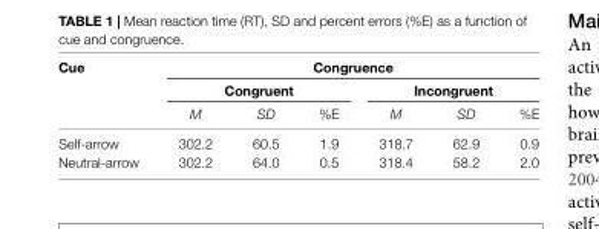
<table><thead><tr><td rowspan="3">Cue</td><td colspan="6">Congruence</td></tr><tr><td colspan="3">Congruent</td><td colspan="3">Incongruent</td></tr><tr><td>M</td><td>SD</td><td>%E</td><td>M</td><td>SD</td><td>%E</td></tr></thead><tbody><tr><td>Self-arrow</td><td>302.2</td><td>60.5</td><td>1.9</td><td>318.7</td><td>62.9</td><td>0.9</td></tr><tr><td>Neutral-arrow</td><td>302.2</td><td>64.0</td><td>0.5</td><td>318.4</td><td>58.2</td><td>2.0</td></tr></tbody></table>